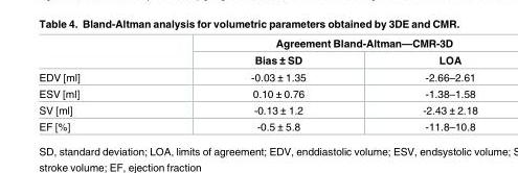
<table><thead><tr><td rowspan="2"></td><td colspan="2">Agreement Bland-Altman—CMR-3D</td></tr><tr><td>Bias ± SD</td><td>LOA</td></tr></thead><tbody><tr><td>EDV [ml]</td><td>-0.03 ± 1.35</td><td>-2.66–2.61</td></tr><tr><td>ESV [ml]</td><td>0.10 ± 0.76</td><td>-1.38–1.58</td></tr><tr><td>SV [ml]</td><td>-0.13 ± 1.2</td><td>-2.43 ± 2.18</td></tr><tr><td>EF [%]</td><td>-0.5 ± 5.8</td><td>-11.8–10.8</td></tr></tbody></table>